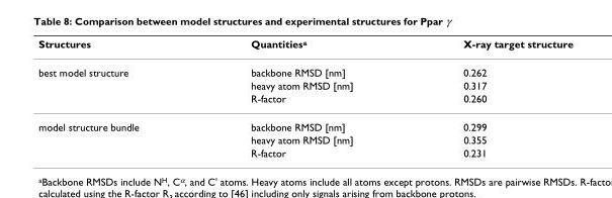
<table><thead><tr><td>Structures</td><td>Quantitiesa</td><td>X-ray target structure</td></tr></thead><tbody><tr><td rowspan="3">best model structure</td><td>backbone RMSD [nm]</td><td>0.262</td></tr><tr><td>heavy atom RMSD [nm]</td><td>0.317</td></tr><tr><td>R-factor</td><td>0.260</td></tr><tr><td rowspan="3">model structure bundle</td><td>backbone RMSD [nm]</td><td>0.299</td></tr><tr><td>heavy atom RMSD [nm]</td><td>0.355</td></tr><tr><td>R-factor</td><td>0.231</td></tr></tbody></table>